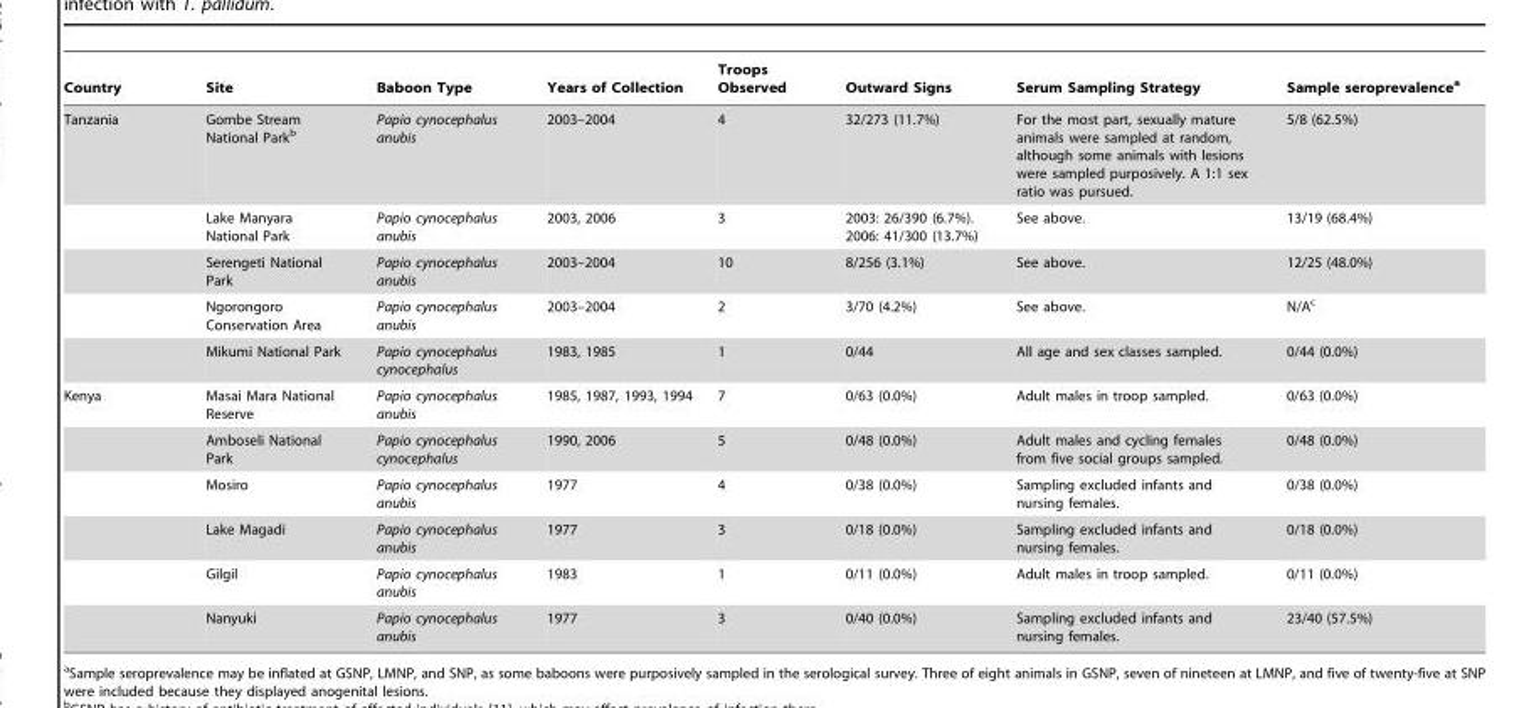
<table><thead><tr><td>Country</td><td>Site</td><td>Baboon Type</td><td>Years of Collection</td><td>Troops Observed</td><td>Outward Signs</td><td>Serum Sampling Strategy</td><td>Sample seroprevalence<sup>a</sup></td></tr></thead><tbody><tr><td rowspan="5">Tanzania</td><td>Gombe Stream National Park<sup>b</sup></td><td>Papio cynocephalus anubis</td><td>2003–2004</td><td>4</td><td>32/273 (11.7%)</td><td>For the most part, sexually mature animals were sampled at random, although some animals with lesions were sampled purposively. A 1:1 sex ratio was pursued.</td><td>5/8 (62.5%)</td></tr><tr><td>Lake Manyara National Park</td><td>Papio cynocephalus anubis</td><td>2003, 2006</td><td>3</td><td>2003: 26/390 (6.7%). 2006: 41/300 (13.7%)</td><td>See above.</td><td>13/19 (68.4%)</td></tr><tr><td>Serengeti National Park</td><td>Papio cynocephalus anubis</td><td>2003–2004</td><td>10</td><td>8/256 (3.1%)</td><td>See above.</td><td>12/25 (48.0%)</td></tr><tr><td>Ngorongoro Conservation Area</td><td>Papio cynocephalus anubis</td><td>2003–2004</td><td>2</td><td>3/70 (4.2%)</td><td>See above.</td><td>N/A<sup>c</sup></td></tr><tr><td>Mikumi National Park</td><td>Papio cynocephalus cynocephalus</td><td>1983, 1985</td><td>1</td><td>0/44</td><td>All age and sex classes sampled.</td><td>0/44 (0.0%)</td></tr><tr><td rowspan="6">Kenya</td><td>Masai Mara National Reserve</td><td>Papio cynocephalus anubis</td><td>1985, 1987, 1993, 1994</td><td>7</td><td>0/63 (0.0%)</td><td>Adult males in troop sampled.</td><td>0/63 (0.0%)</td></tr><tr><td>Amboseli National Park</td><td>Papio cynocephalus cynocephalus</td><td>1990, 2006</td><td>5</td><td>0/48 (0.0%)</td><td>Adult males and cycling females from five social groups sampled.</td><td>0/48 (0.0%)</td></tr><tr><td>Mosiro</td><td>Papio cynocephalus anubis</td><td>1977</td><td>4</td><td>0/38 (0.0%)</td><td>Sampling excluded infants and nursing females.</td><td>0/38 (0.0%)</td></tr><tr><td>Lake Magadi</td><td>Papio cynocephalus anubis</td><td>1977</td><td>3</td><td>0/18 (0.0%)</td><td>Sampling excluded infants and nursing females.</td><td>0/18 (0.0%)</td></tr><tr><td>Gilgil</td><td>Papio cynocephalus anubis</td><td>1983</td><td>1</td><td>0/11 (0.0%)</td><td>Adult males in troop sampled.</td><td>0/11 (0.0%)</td></tr><tr><td>Nanyuki</td><td>Papio cynocephalus anubis</td><td>1977</td><td>3</td><td>0/40 (0.0%)</td><td>Sampling excluded infants and nursing females.</td><td>23/40 (57.5%)</td></tr></tbody></table>